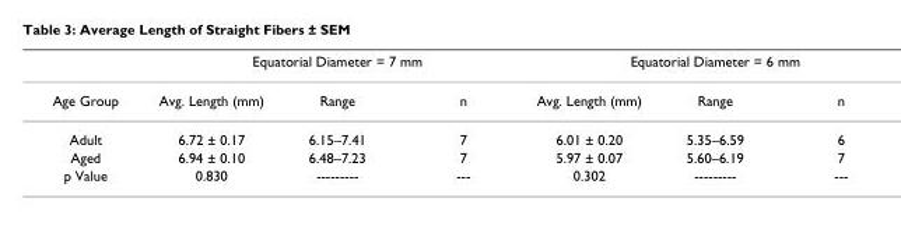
<table><thead><tr><td rowspan="2">Age Group</td><td colspan="3">Equatorial Diameter = 7 mm</td><td colspan="3">Equatorial Diameter = 6 mm</td></tr><tr><td>Avg. Length (mm)</td><td>Range</td><td>n</td><td>Avg. Length (mm)</td><td>Range</td><td>n</td></tr></thead><tbody><tr><td>Adult</td><td>6.72 ± 0.17</td><td>6.15–7.41</td><td>7</td><td>6.01 ± 0.20</td><td>5.35–6.59</td><td>6</td></tr><tr><td>Aged</td><td>6.94 ± 0.10</td><td>6.48–7.23</td><td>7</td><td>5.97 ± 0.07</td><td>5.60–6.19</td><td>7</td></tr><tr><td>p Value</td><td>0.830</td><td>---------</td><td>---</td><td>0.302</td><td>---------</td><td>---</td></tr></tbody></table>